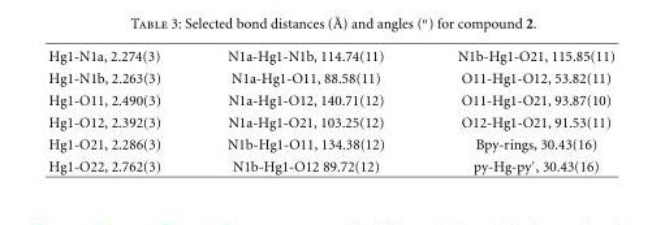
<table><tbody><tr><td>Hg1-N1a, 2.274(3)</td><td>N1a-Hg1-N1b, 114.74(11)</td><td>N1b-Hg1-O21, 115.85(11)</td></tr><tr><td>Hg1-N1b, 2.263(3)</td><td>N1a-Hg1-O11, 88.58(11)</td><td>O11-Hg1-O12, 53.82(11)</td></tr><tr><td>Hg1-O11, 2.490(3)</td><td>N1a-Hg1-O12, 140.71(12)</td><td>O11-Hg1-O21, 93.87(10)</td></tr><tr><td>Hg1-O12, 2.392(3)</td><td>N1a-Hg1-O21, 103.25(12)</td><td>O12-Hg1-O21, 91.53(11)</td></tr><tr><td>Hg1-O21, 2.286(3)</td><td>N1b-Hg1-O11, 134.38(12)</td><td>Bpy-rings, 30.43(16)</td></tr><tr><td>Hg1-O22, 2.762(3)</td><td>N1b-Hg1-O12 89.72(12)</td><td>py-Hg-py′, 30.43(16)</td></tr></tbody></table>